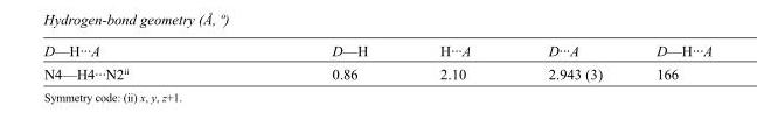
<table><tbody><tr><td>D—H···A</td><td>D—H</td><td>H···A</td><td>D···A</td><td>D—H···A</td></tr><tr><td>N4—H4···N2<sup>ii</sup></td><td>0.86</td><td>2.10</td><td>2.943 (3)</td><td>166</td></tr></tbody></table>